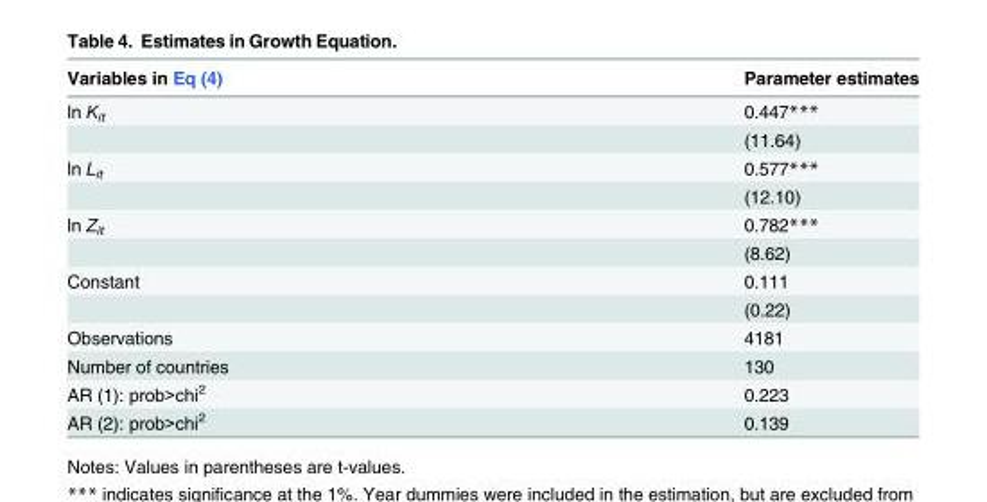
<table><thead><tr><td>Variables in Eq (4)</td><td>Parameter estimates</td></tr></thead><tbody><tr><td rowspan="2">ln K<sub>it</sub></td><td>0.447***</td></tr><tr><td>(11.64)</td></tr><tr><td rowspan="2">ln L<sub>it</sub></td><td>0.577***</td></tr><tr><td>(12.10)</td></tr><tr><td rowspan="2">ln Z<sub>it</sub></td><td>0.782***</td></tr><tr><td>(8.62)</td></tr><tr><td rowspan="2">Constant</td><td>0.111</td></tr><tr><td>(0.22)</td></tr><tr><td>Observations</td><td>4181</td></tr><tr><td>Number of countries</td><td>130</td></tr><tr><td>AR (1): prob&gt;chi<sup>2</sup></td><td>0.223</td></tr><tr><td>AR (2): prob&gt;chi<sup>2</sup></td><td>0.139</td></tr></tbody></table>